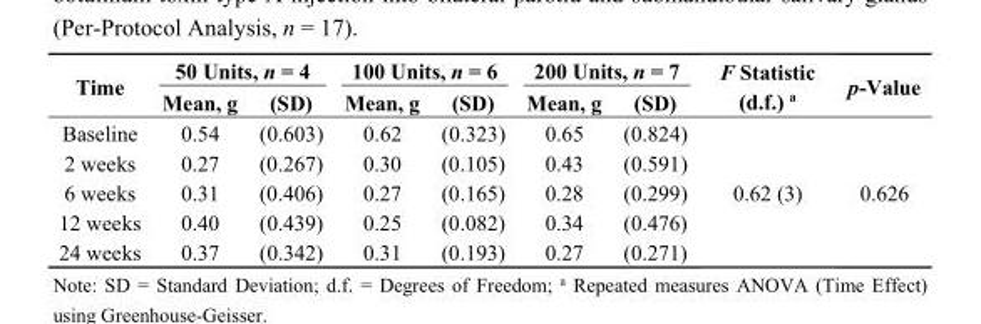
<table><thead><tr><td rowspan="2">Time</td><td colspan="2">50 Units, n = 4</td><td colspan="2">100 Units, n = 6</td><td colspan="2">200 Units, n = 7</td><td rowspan="2">F Statistic (d.f.) <sup>a</sup></td><td rowspan="2">p-Value</td></tr><tr><td>Mean, g</td><td>(SD)</td><td>Mean, g</td><td>(SD)</td><td>Mean, g</td><td>(SD)</td></tr></thead><tbody><tr><td>Baseline</td><td>0.54</td><td>(0.603)</td><td>0.62</td><td>(0.323)</td><td>0.65</td><td>(0.824)</td><td rowspan="5">0.62 (3)</td><td rowspan="5">0.626</td></tr><tr><td>2 weeks</td><td>0.27</td><td>(0.267)</td><td>0.30</td><td>(0.105)</td><td>0.43</td><td>(0.591)</td></tr><tr><td>6 weeks</td><td>0.31</td><td>(0.406)</td><td>0.27</td><td>(0.165)</td><td>0.28</td><td>(0.299)</td></tr><tr><td>12 weeks</td><td>0.40</td><td>(0.439)</td><td>0.25</td><td>(0.082)</td><td>0.34</td><td>(0.476)</td></tr><tr><td>24 weeks</td><td>0.37</td><td>(0.342)</td><td>0.31</td><td>(0.193)</td><td>0.27</td><td>(0.271)</td></tr></tbody></table>